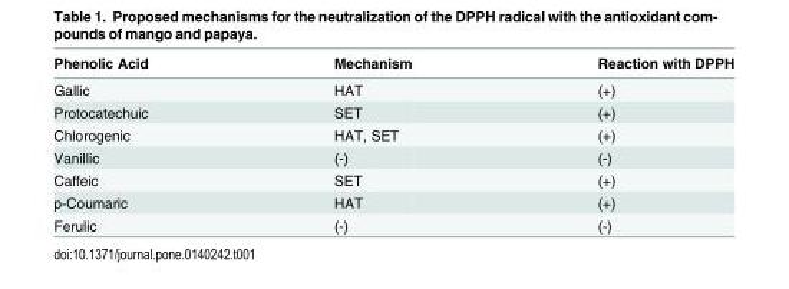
<table><thead><tr><td>Phenolic Acid</td><td>Mechanism</td><td>Reaction with DPPH</td></tr></thead><tbody><tr><td>Gallic</td><td>HAT</td><td>(+)</td></tr><tr><td>Protocatechuic</td><td>SET</td><td>(+)</td></tr><tr><td>Chlorogenic</td><td>HAT, SET</td><td>(+)</td></tr><tr><td>Vanillic</td><td>(-)</td><td>(-)</td></tr><tr><td>Caffeic</td><td>SET</td><td>(+)</td></tr><tr><td>p-Coumaric</td><td>HAT</td><td>(+)</td></tr><tr><td>Ferulic</td><td>(-)</td><td>(-)</td></tr></tbody></table>